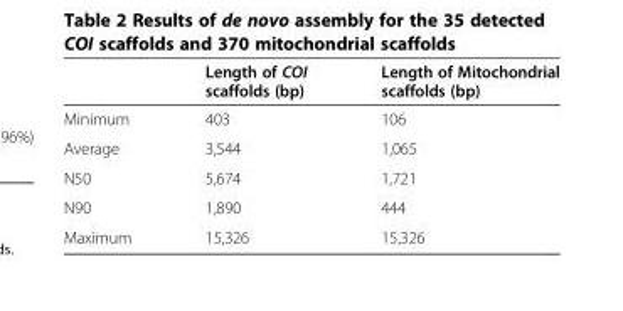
<table><thead><tr><td></td><td>Length of COI scaffolds (bp)</td><td>Length of Mitochondrial scaffolds (bp)</td></tr></thead><tbody><tr><td>Minimum</td><td>403</td><td>106</td></tr><tr><td>Average</td><td>3,544</td><td>1,065</td></tr><tr><td>N50</td><td>5,674</td><td>1,721</td></tr><tr><td>N90</td><td>1,890</td><td>444</td></tr><tr><td>Maximum</td><td>15,326</td><td>15,326</td></tr></tbody></table>